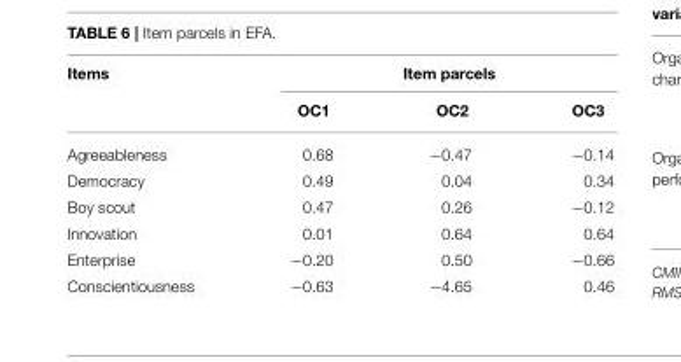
<table><thead><tr><td rowspan="2">Items</td><td colspan="3">Item parcels</td></tr><tr><td>OC1</td><td>OC2</td><td>OC3</td></tr></thead><tbody><tr><td>Agreeableness</td><td>0.68</td><td>−0.47</td><td>−0.14</td></tr><tr><td>Democracy</td><td>0.49</td><td>0.04</td><td>0.34</td></tr><tr><td>Boy scout</td><td>0.47</td><td>0.26</td><td>−0.12</td></tr><tr><td>Innovation</td><td>0.01</td><td>0.64</td><td>0.64</td></tr><tr><td>Enterprise</td><td>−0.20</td><td>0.50</td><td>−0.66</td></tr><tr><td>Conscientiousness</td><td>−0.63</td><td>−4.65</td><td>0.46</td></tr></tbody></table>